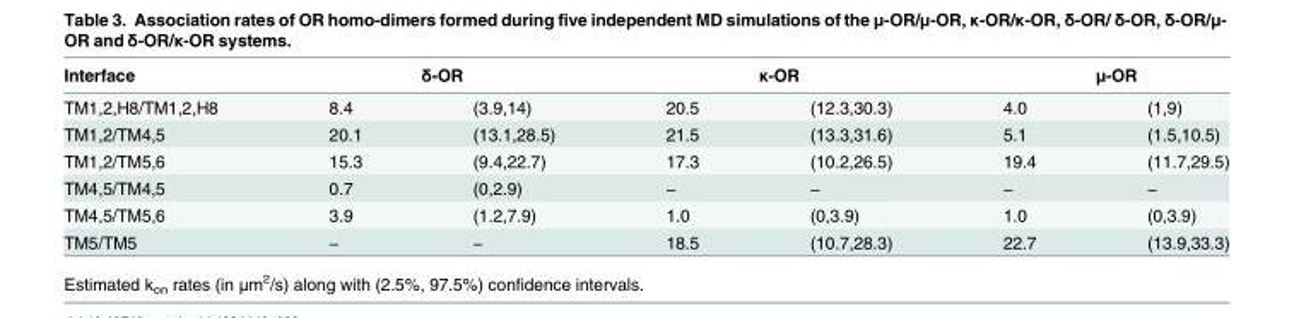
<table><thead><tr><td rowspan="2">Interface TM1,2,H8/TM1,2,H8</td><td colspan="2">δ-OR</td><td colspan="2">κ-OR</td><td colspan="2">μ-OR</td></tr><tr><td>8.4</td><td>(3.9,14)</td><td>20.5</td><td>(12.3,30.3)</td><td>4.0</td><td>(1,9)</td></tr></thead><tbody><tr><td>TM1,2/TM4,5</td><td>20.1</td><td>(13.1,28.5)</td><td>21.5</td><td>(13.3,31.6)</td><td>5.1</td><td>(1.5,10.5)</td></tr><tr><td>TM1,2/TM5,6</td><td>15.3</td><td>(9.4,22.7)</td><td>17.3</td><td>(10.2,26.5)</td><td>19.4</td><td>(11.7,29.5)</td></tr><tr><td>TM4,5/TM4,5</td><td>0.7</td><td>(0,2.9)</td><td>―</td><td>―</td><td>―</td><td>―</td></tr><tr><td>TM4,5/TM5,6</td><td>3.9</td><td>(1.2,7.9)</td><td>1.0</td><td>(0,3.9)</td><td>1.0</td><td>(0,3.9)</td></tr><tr><td>TM5/TM5</td><td>―</td><td>―</td><td>18.5</td><td>(10.7,28.3)</td><td>22.7</td><td>(13.9,33.3)</td></tr></tbody></table>